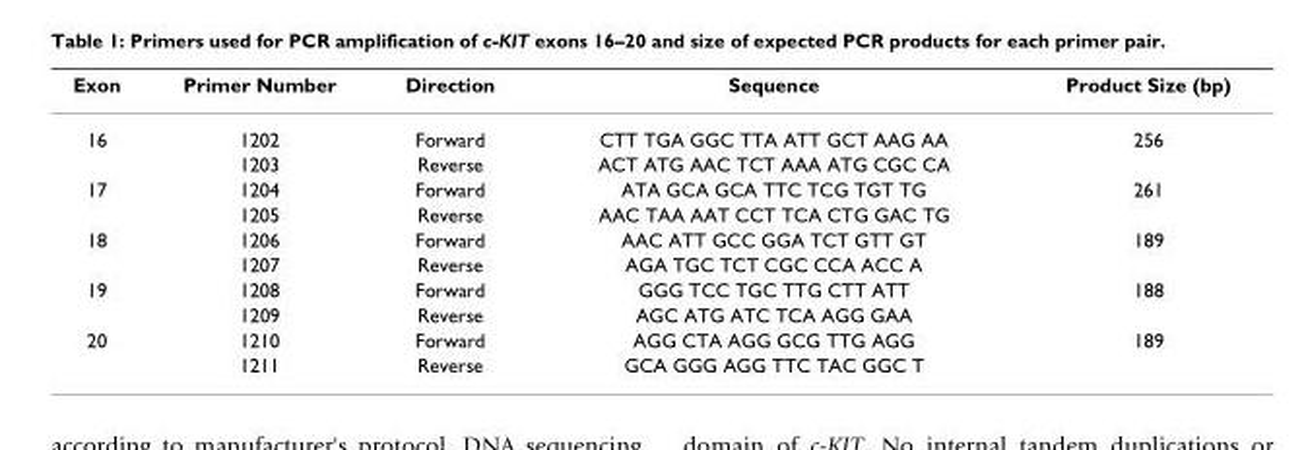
<table><thead><tr><td>Exon</td><td>Primer Number</td><td>Direction</td><td>Sequence</td><td>Product Size (bp)</td></tr></thead><tbody><tr><td rowspan="2">16</td><td>1202</td><td>Forward</td><td>CTT TGA GGC TTA ATT GCT AAG AA</td><td>256</td></tr><tr><td>1203</td><td>Reverse</td><td>ACT ATG AAC TCT AAA ATG CGC CA</td><td></td></tr><tr><td rowspan="2">17</td><td>1204</td><td>Forward</td><td>ATA GCA GCA TTC TCG TGT TG</td><td>261</td></tr><tr><td>1205</td><td>Reverse</td><td>AAC TAA AAT CCT TCA CTG GAC TG</td><td></td></tr><tr><td rowspan="2">18</td><td>1206</td><td>Forward</td><td>AAC ATT GCC GGA TCT GTT GT</td><td>189</td></tr><tr><td>1207</td><td>Reverse</td><td>AGA TGC TCT CGC CCA ACC A</td><td></td></tr><tr><td rowspan="2">19</td><td>1208</td><td>Forward</td><td>GGG TCC TGC TTG CTT ATT</td><td>188</td></tr><tr><td>1209</td><td>Reverse</td><td>AGC ATG ATC TCA AGG GAA</td><td></td></tr><tr><td rowspan="2">20</td><td>1210</td><td>Forward</td><td>AGG CTA AGG GCG TTG AGG</td><td>189</td></tr><tr><td>1211</td><td>Reverse</td><td>GCA GGG AGG TTC TAC GGC T</td><td></td></tr></tbody></table>